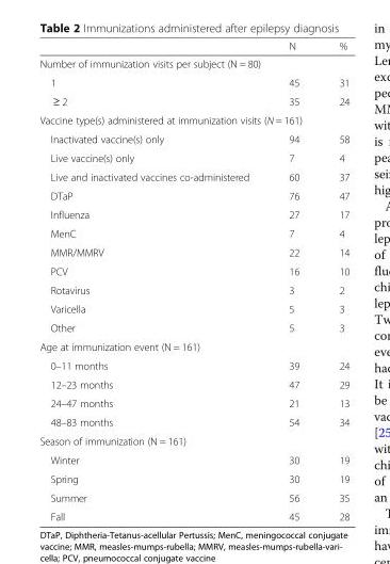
<table><thead><tr><td></td><td>N</td><td>%</td></tr></thead><tbody><tr><td colspan="3">Number of immunization visits per subject (N = 80)</td></tr><tr><td>1</td><td>45</td><td>31</td></tr><tr><td>≥ 2</td><td>35</td><td>24</td></tr><tr><td colspan="3">Vaccine type(s) administered at immunization visits (N = 161)</td></tr><tr><td>Inactivated vaccine(s) only</td><td>94</td><td>58</td></tr><tr><td>Live vaccine(s) only</td><td>7</td><td>4</td></tr><tr><td>Live and inactivated vaccines co-administered</td><td>60</td><td>37</td></tr><tr><td>DTaP</td><td>76</td><td>47</td></tr><tr><td>Influenza</td><td>27</td><td>17</td></tr><tr><td>MenC</td><td>7</td><td>4</td></tr><tr><td>MMR/MMRV</td><td>22</td><td>14</td></tr><tr><td>PCV</td><td>16</td><td>10</td></tr><tr><td>Rotavirus</td><td>3</td><td>2</td></tr><tr><td>Varicella</td><td>5</td><td>3</td></tr><tr><td>Other</td><td>5</td><td>3</td></tr><tr><td colspan="3">Age at immunization event (N = 161)</td></tr><tr><td>0–11 months</td><td>39</td><td>24</td></tr><tr><td>12–23 months</td><td>47</td><td>29</td></tr><tr><td>24–47 months</td><td>21</td><td>13</td></tr><tr><td>48–83 months</td><td>54</td><td>34</td></tr><tr><td colspan="3">Season of immunization (N = 161)</td></tr><tr><td>Winter</td><td>30</td><td>19</td></tr><tr><td>Spring</td><td>30</td><td>19</td></tr><tr><td>Summer</td><td>56</td><td>35</td></tr><tr><td>Fall</td><td>45</td><td>28</td></tr></tbody></table>